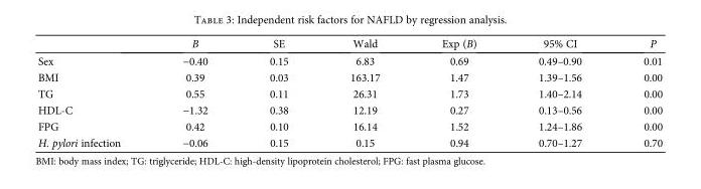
<table><thead><tr><td></td><td>B</td><td>SE</td><td>Wald</td><td>Exp (B)</td><td>95% CI</td><td>P</td></tr></thead><tbody><tr><td>Sex</td><td>−0.40</td><td>0.15</td><td>6.83</td><td>0.69</td><td>0.49–0.90</td><td>0.01</td></tr><tr><td>BMI</td><td>0.39</td><td>0.03</td><td>163.17</td><td>1.47</td><td>1.39–1.56</td><td>0.00</td></tr><tr><td>TG</td><td>0.55</td><td>0.11</td><td>26.31</td><td>1.73</td><td>1.40–2.14</td><td>0.00</td></tr><tr><td>HDL-C</td><td>−1.32</td><td>0.38</td><td>12.19</td><td>0.27</td><td>0.13–0.56</td><td>0.00</td></tr><tr><td>FPG</td><td>0.42</td><td>0.10</td><td>16.14</td><td>1.52</td><td>1.24–1.86</td><td>0.00</td></tr><tr><td>H. pylori infection</td><td>−0.06</td><td>0.15</td><td>0.15</td><td>0.94</td><td>0.70–1.27</td><td>0.70</td></tr></tbody></table>